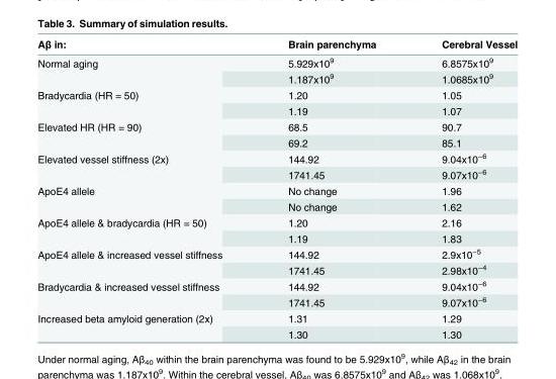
<table><thead><tr><td>Aβ in:</td><td>Brain parenchyma</td><td>Cerebral Vessel</td></tr></thead><tbody><tr><td rowspan="2">Normal aging</td><td>5.929x10<sup>9</sup></td><td>6.8575x10<sup>9</sup></td></tr><tr><td>1.187x10<sup>9</sup></td><td>1.0685x10<sup>9</sup></td></tr><tr><td rowspan="2">Bradycardia (HR = 50)</td><td>1.20</td><td>1.05</td></tr><tr><td>1.19</td><td>1.07</td></tr><tr><td rowspan="2">Elevated HR (HR = 90)</td><td>68.5</td><td>90.7</td></tr><tr><td>69.2</td><td>85.1</td></tr><tr><td rowspan="2">Elevated vessel stiffness (2x)</td><td>144.92</td><td>9.04x10<sup>−6</sup></td></tr><tr><td>1741.45</td><td>9.07x10<sup>−6</sup></td></tr><tr><td rowspan="2">ApoE4 allele</td><td>No change</td><td>1.96</td></tr><tr><td>No change</td><td>1.62</td></tr><tr><td rowspan="2">ApoE4 allele &amp; bradycardia (HR = 50)</td><td>1.20</td><td>2.16</td></tr><tr><td>1.19</td><td>1.83</td></tr><tr><td rowspan="2">ApoE4 allele &amp; increased vessel stiffness</td><td>144.92</td><td>2.9x10<sup>−5</sup></td></tr><tr><td>1741.45</td><td>2.98x10<sup>−4</sup></td></tr><tr><td rowspan="2">Bradycardia &amp; increased vessel stiffness</td><td>144.92</td><td>9.04x10<sup>−6</sup></td></tr><tr><td>1741.45</td><td>9.07x10<sup>−6</sup></td></tr><tr><td rowspan="2">Increased beta amyloid generation (2x)</td><td>1.31</td><td>1.29</td></tr><tr><td>1.30</td><td>1.30</td></tr></tbody></table>